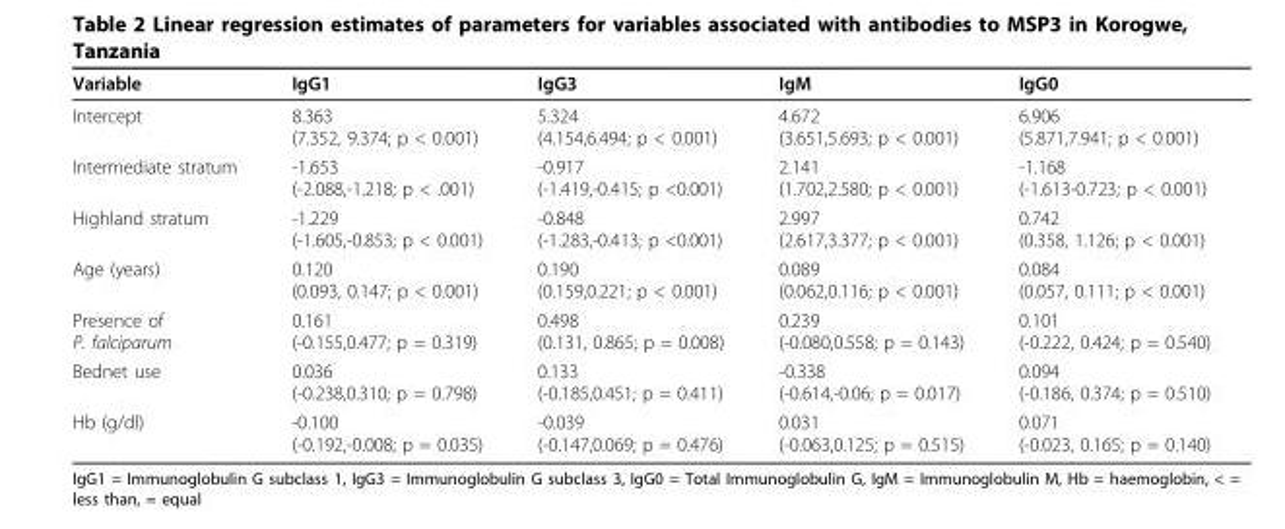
<table><thead><tr><td>Variable</td><td>IgG1</td><td>IgG3</td><td>IgM</td><td>IgG0</td></tr></thead><tbody><tr><td>Intercept</td><td>8.363 (7.352, 9.374; p &lt; 0.001)</td><td>5.324 (4.154,6.494; p &lt; 0.001)</td><td>4.672 (3.651,5.693; p &lt; 0.001)</td><td>6.906 (5.871,7.941; p &lt; 0.001)</td></tr><tr><td>Intermediate stratum</td><td>-1.653 (-2.088,-1.218; p &lt; .001)</td><td>-0.917 (-1.419,-0.415; p &lt;0.001)</td><td>2.141 (1.702,2.580; p &lt; 0.001)</td><td>-1.168 (-1.613-0.723; p &lt; 0.001)</td></tr><tr><td>Highland stratum</td><td>-1.229 (-1.605,-0.853; p &lt; 0.001)</td><td>-0.848 (-1.283,-0.413; p &lt;0.001)</td><td>2.997 (2.617,3.377; p &lt; 0.001)</td><td>0.742 (0.358, 1.126; p &lt; 0.001)</td></tr><tr><td>Age (years)</td><td>0.120 (0.093, 0.147; p &lt; 0.001)</td><td>0.190 (0.159,0.221; p &lt; 0.001)</td><td>0.089 (0.062,0.116; p &lt; 0.001)</td><td>0.084 (0.057, 0.111; p &lt; 0.001)</td></tr><tr><td>Presence of P. falciparum</td><td>0.161 (-0.155,0.477; p = 0.319)</td><td>0.498 (0.131, 0.865; p = 0.008)</td><td>0.239 (-0.080,0.558; p = 0.143)</td><td>0.101 (-0.222, 0.424; p = 0.540)</td></tr><tr><td>Bednet use</td><td>0.036 (-0.238,0.310; p = 0.798)</td><td>0.133 (-0.185,0.451; p = 0.411)</td><td>-0.338 (-0.614,-0.06; p = 0.017)</td><td>0.094 (-0.186, 0.374; p = 0.510)</td></tr><tr><td>Hb (g/dl)</td><td>-0.100 (-0.192,-0.008; p = 0.035)</td><td>-0.039 (-0.147,0.069; p = 0.476)</td><td>0.031 (-0.063,0.125; p = 0.515)</td><td>0.071 (-0.023, 0.165; p = 0.140)</td></tr></tbody></table>